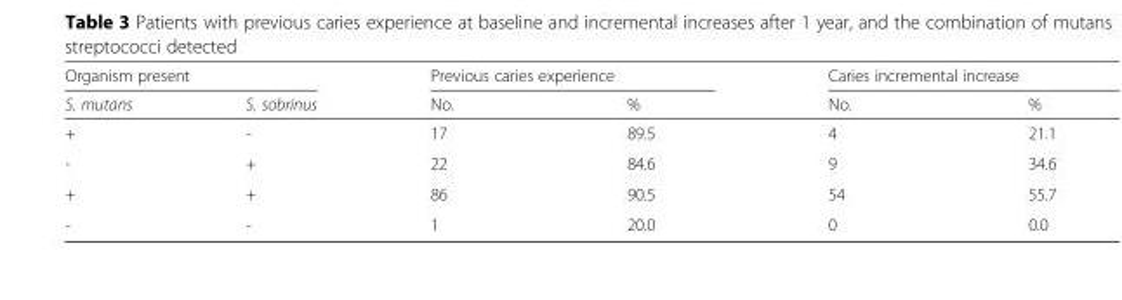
<table><thead><tr><td colspan="2">Organism present</td><td colspan="2">Previous caries experience</td><td colspan="2">Caries incremental increase</td></tr><tr><td>S. mutans</td><td>S. sobrinus</td><td>No.</td><td>%</td><td>No.</td><td>%</td></tr></thead><tbody><tr><td>+</td><td>-</td><td>17</td><td>89.5</td><td>4</td><td>21.1</td></tr><tr><td>-</td><td>+</td><td>22</td><td>84.6</td><td>9</td><td>34.6</td></tr><tr><td>+</td><td>+</td><td>86</td><td>90.5</td><td>54</td><td>55.7</td></tr><tr><td>-</td><td>-</td><td>1</td><td>20.0</td><td>0</td><td>0.0</td></tr></tbody></table>